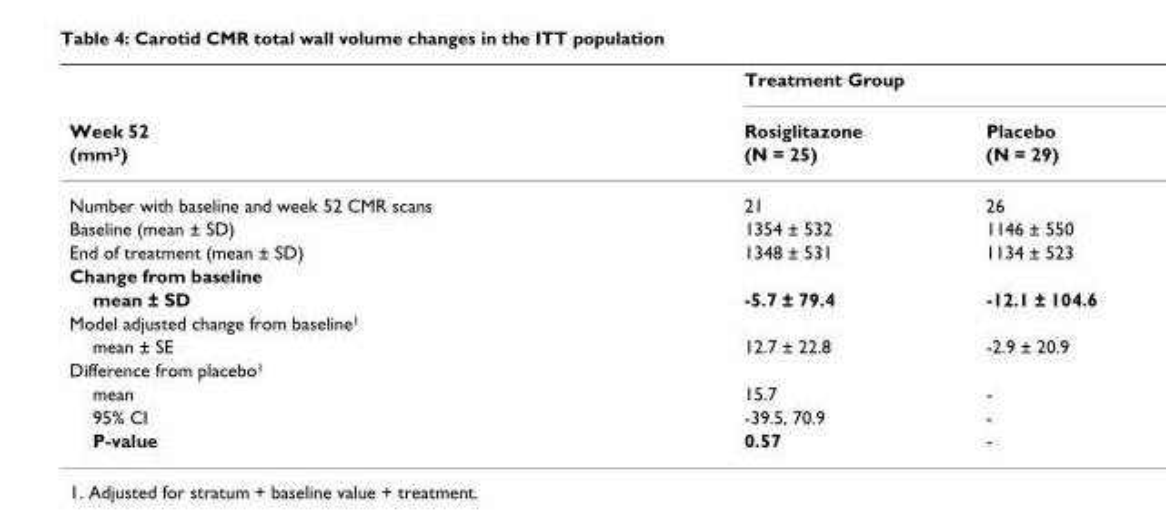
<table><thead><tr><td rowspan="3">Week 52 (mm<sup>3</sup>)</td><td colspan="2">Treatment Group</td></tr><tr><td rowspan="2">Rosiglitazone (N = 25)</td><td rowspan="2">Placebo (N = 29)</td></tr><tr></tr></thead><tbody><tr><td>Number with baseline and week 52 CMR scans</td><td>21</td><td>26</td></tr><tr><td>Baseline (mean ± SD)</td><td>1354 ± 532</td><td>1146 ± 550</td></tr><tr><td>End of treatment (mean ± SD)</td><td>1348 ± 531</td><td>1134 ± 523</td></tr><tr><td colspan="3">Change from baseline</td></tr><tr><td>mean ± SD</td><td>-5.7 ± 79.4</td><td>-12.1 ± 104.6</td></tr><tr><td colspan="3">Model adjusted change from baseline<sup>1</sup></td></tr><tr><td>mean ± SE</td><td>12.7 ± 22.8</td><td>-2.9 ± 20.9</td></tr><tr><td colspan="3">Difference from placebo<sup>1</sup></td></tr><tr><td>mean</td><td>15.7</td><td>-</td></tr><tr><td>95% CI</td><td>-39.5, 70.9</td><td>-</td></tr><tr><td>P-value</td><td>0.57</td><td>-</td></tr></tbody></table>